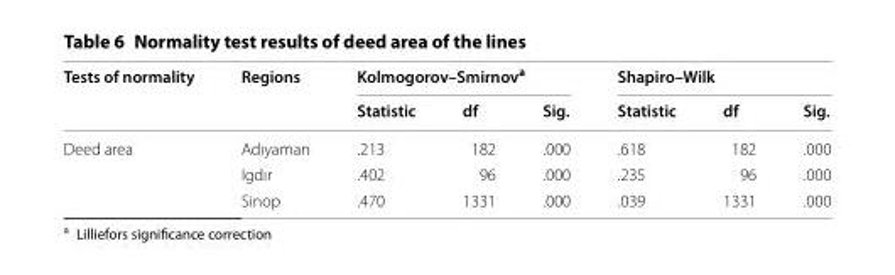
<table><thead><tr><td rowspan="2">Tests of normality</td><td rowspan="2">Regions</td><td colspan="3">Kolmogorov–Smirnov<sup>a</sup></td><td colspan="3">Shapiro–Wilk</td></tr><tr><td>Statistic</td><td>df</td><td>Sig.</td><td>Statistic</td><td>df</td><td>Sig.</td></tr></thead><tbody><tr><td rowspan="3">Deed area</td><td>Adıyaman</td><td>.213</td><td>182</td><td>.000</td><td>.618</td><td>182</td><td>.000</td></tr><tr><td>Igdır</td><td>.402</td><td>96</td><td>.000</td><td>.235</td><td>96</td><td>.000</td></tr><tr><td>Sinop</td><td>.470</td><td>1331</td><td>.000</td><td>.039</td><td>1331</td><td>.000</td></tr></tbody></table>